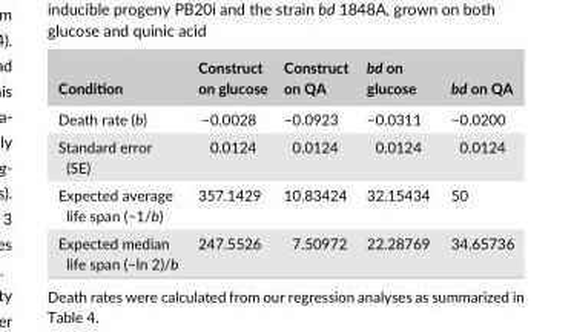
<table><thead><tr><td>Condition</td><td>Construct on glucose</td><td>Construct on QA</td><td>bd on glucose</td><td>bd on QA</td></tr></thead><tbody><tr><td>Death rate (b)</td><td>−0.0028</td><td>−0.0923</td><td>−0.0311</td><td>−0.0200</td></tr><tr><td>Standard error (SE)</td><td>0.0124</td><td>0.0124</td><td>0.0124</td><td>0.0124</td></tr><tr><td>Expected average life span (−1/b)</td><td>357.1429</td><td>10.83424</td><td>32.15434</td><td>50</td></tr><tr><td>Expected median life span (−ln 2)/b</td><td>247.5526</td><td>7.50972</td><td>22.28769</td><td>34.65736</td></tr></tbody></table>